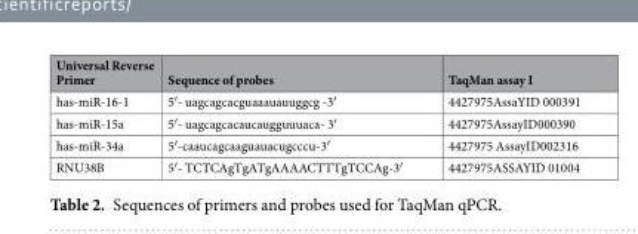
<table><thead><tr><td>Universal Reverse Primer</td><td>Sequence of probes</td><td>TaqMan assay I</td></tr></thead><tbody><tr><td>has-miR-16-1</td><td>5′- uagcagcacguaaauauuggcg -3′</td><td>4427975AssaYID 000391</td></tr><tr><td>has-miR-15a</td><td>5′- uagcagcacaucaugguuuaca- 3′</td><td>4427975AssayID000390</td></tr><tr><td>has-miR-34a</td><td>5′-caaucagcaaguauacugcccu-3′</td><td>4427975 AssayID002316</td></tr><tr><td>RNU38B</td><td>5′- TCTCAgTgATgAAAACTTTgTCCAg-3′</td><td>4427975ASSAYID 01004</td></tr></tbody></table>